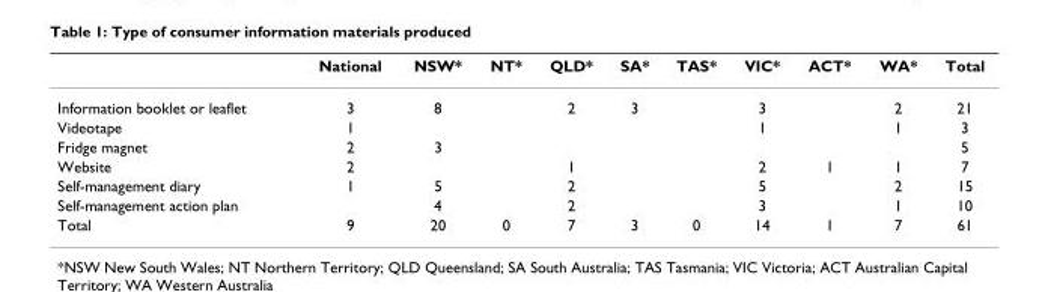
<table><thead><tr><td></td><td>National</td><td>NSW*</td><td>NT*</td><td>QLD*</td><td>SA*</td><td>TAS*</td><td>VIC*</td><td>ACT*</td><td>WA*</td><td>Total</td></tr></thead><tbody><tr><td>Information booklet or leaflet</td><td>3</td><td>8</td><td></td><td>2</td><td>3</td><td></td><td>3</td><td></td><td>2</td><td>21</td></tr><tr><td>Videotape</td><td>1</td><td></td><td></td><td></td><td></td><td></td><td>1</td><td></td><td>1</td><td>3</td></tr><tr><td>Fridge magnet</td><td>2</td><td>3</td><td></td><td></td><td></td><td></td><td></td><td></td><td></td><td>5</td></tr><tr><td>Website</td><td>2</td><td></td><td></td><td>1</td><td></td><td></td><td>2</td><td>1</td><td>1</td><td>7</td></tr><tr><td>Self-management diary</td><td>1</td><td>5</td><td></td><td>2</td><td></td><td></td><td>5</td><td></td><td>2</td><td>15</td></tr><tr><td>Self-management action plan</td><td></td><td>4</td><td></td><td>2</td><td></td><td></td><td>3</td><td></td><td>1</td><td>10</td></tr><tr><td>Total</td><td>9</td><td>20</td><td>0</td><td>7</td><td>3</td><td>0</td><td>14</td><td>1</td><td>7</td><td>61</td></tr></tbody></table>